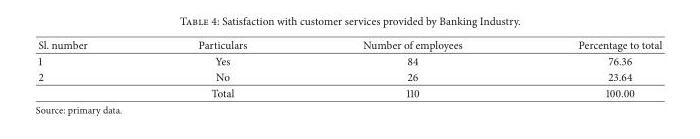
<table><thead><tr><td>Sl. number</td><td>Particulars</td><td>Number of employees</td><td>Percentage to total</td></tr></thead><tbody><tr><td>1</td><td>Yes</td><td>84</td><td>76.36</td></tr><tr><td rowspan="2">2</td><td>No</td><td>26</td><td>23.64</td></tr><tr><td>Total</td><td>110</td><td>100.00</td></tr></tbody></table>